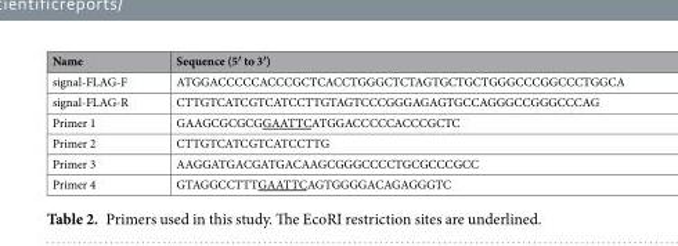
<table><thead><tr><td>Name</td><td>Sequence (5′ to 3′)</td></tr></thead><tbody><tr><td>signal-FLAG-F</td><td>ATGGACCCCCACCCGCTCACCTGGGCTCTAGTGCTGCTGGGCCCGGCCCTGGCA</td></tr><tr><td>signal-FLAG-R</td><td>CTTGTCATCGTCATCCTTGTAGTCCCGGGAGAGTGCCAGGGCCGGGCCCAG</td></tr><tr><td>Primer 1</td><td>GAAGCGCGCGGAATTCATGGACCCCCACCCGCTC</td></tr><tr><td>Primer 2</td><td>CTTGTCATCGTCATCCTTG</td></tr><tr><td>Primer 3</td><td>AAGGATGACGATGACAAGCGGGCCCCTGCGCCCGCC</td></tr><tr><td>Primer 4</td><td>GTAGGCCTTTGAATTCAGTGGGGACAGAGGGTC</td></tr></tbody></table>